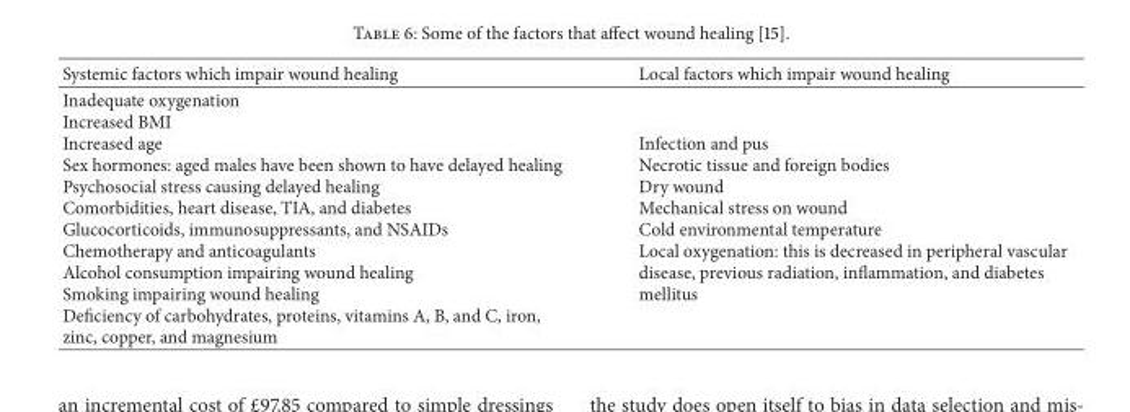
<table><thead><tr><td>Systemic factors which impair wound healing</td><td>Local factors which impair wound healing</td></tr></thead><tbody><tr><td>Inadequate oxygenation Increased BMI Increased age Sex hormones: aged males have been shown to have delayed healing Psychosocial stress causing delayed healing Comorbidities, heart disease, TIA, and diabetes Glucocorticoids, immunosuppressants, and NSAIDs Chemotherapy and anticoagulants Alcohol consumption impairing wound healing Smoking impairing wound healing Deficiency of carbohydrates, proteins, vitamins A, B, and C, iron, zinc, copper, and magnesium</td><td>Infection and pus Necrotic tissue and foreign bodies Dry wound Mechanical stress on wound Cold environmental temperature Local oxygenation: this is decreased in peripheral vascular disease, previous radiation, inflammation, and diabetes mellitus</td></tr></tbody></table>